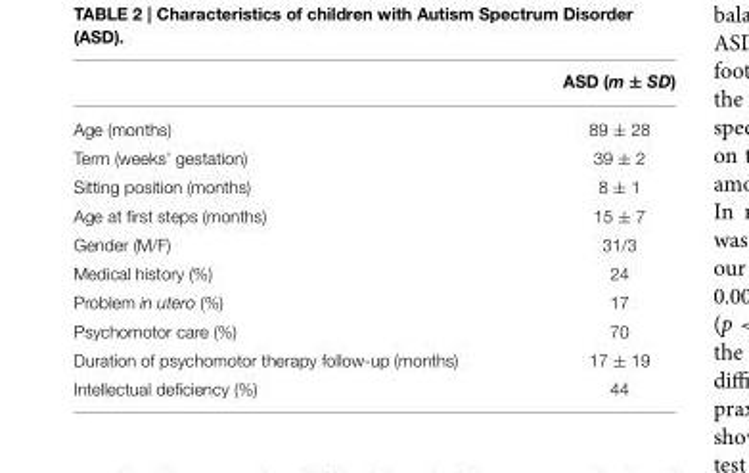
<table><thead><tr><td></td><td>ASD (m ± SD)</td></tr></thead><tbody><tr><td>Age (months)</td><td>89 ± 28</td></tr><tr><td>Term (weeks’ gestation)</td><td>39 ± 2</td></tr><tr><td>Sitting position (months)</td><td>8 ± 1</td></tr><tr><td>Age at first steps (months)</td><td>15 ± 7</td></tr><tr><td>Gender (M/F)</td><td>31/3</td></tr><tr><td>Medical history (%)</td><td>24</td></tr><tr><td>Problem in utero (%)</td><td>17</td></tr><tr><td>Psychomotor care (%)</td><td>70</td></tr><tr><td>Duration of psychomotor therapy follow-up (months)</td><td>17 ± 19</td></tr><tr><td>Intellectual deficiency (%)</td><td>44</td></tr></tbody></table>